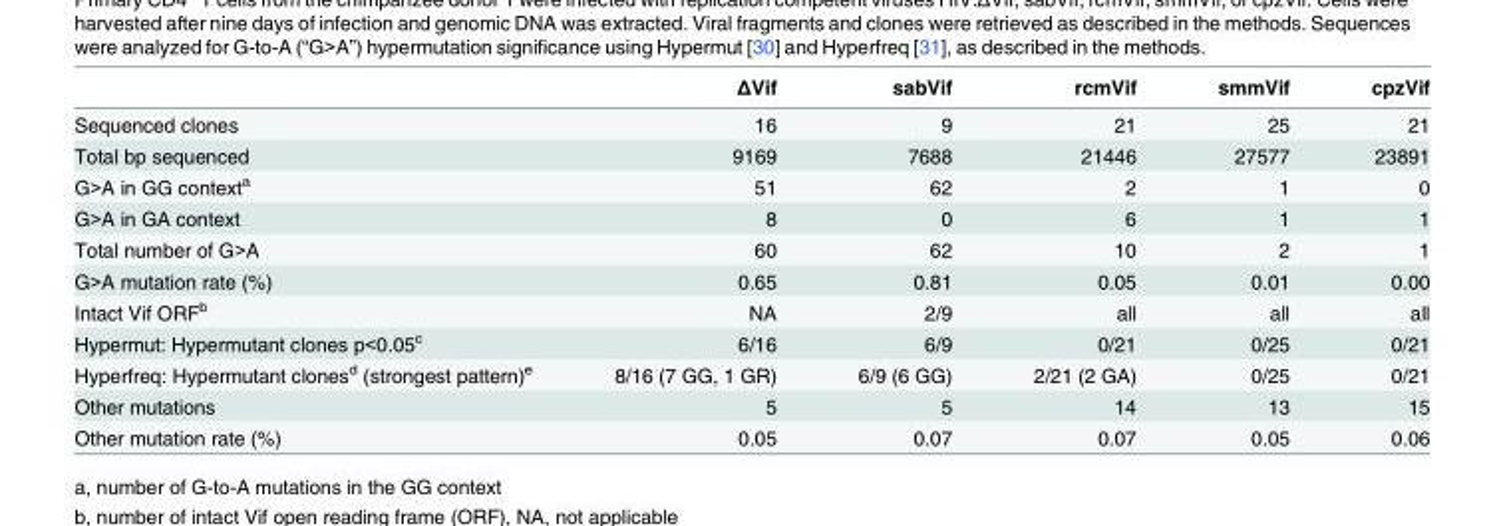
<table><thead><tr><td></td><td>ΔVif</td><td>sabVif</td><td>rcmVif</td><td>smmVif</td><td>cpzVif</td></tr></thead><tbody><tr><td>Sequenced clones</td><td>16</td><td>9</td><td>21</td><td>25</td><td>21</td></tr><tr><td>Total bp sequenced</td><td>9169</td><td>7688</td><td>21446</td><td>27577</td><td>23891</td></tr><tr><td>G&gt;A in GG context<sup>a</sup></td><td>51</td><td>62</td><td>2</td><td>1</td><td>0</td></tr><tr><td>G&gt;A in GA context</td><td>8</td><td>0</td><td>6</td><td>1</td><td>1</td></tr><tr><td>Total number of G&gt;A</td><td>60</td><td>62</td><td>10</td><td>2</td><td>1</td></tr><tr><td>G&gt;A mutation rate (%)</td><td>0.65</td><td>0.81</td><td>0.05</td><td>0.01</td><td>0.00</td></tr><tr><td>Intact Vif ORF<sup>b</sup></td><td>NA</td><td>2/9</td><td>all</td><td>all</td><td>all</td></tr><tr><td>Hypermut: Hypermutant clones p&lt;0.05<sup>c</sup></td><td>6/16</td><td>6/9</td><td>0/21</td><td>0/25</td><td>0/21</td></tr><tr><td>Hyperfreq: Hypermutant clones<sup>d</sup> (strongest pattern)<sup>e</sup></td><td>8/16 (7 GG, 1 GR)</td><td>6/9 (6 GG)</td><td>2/21 (2 GA)</td><td>0/25</td><td>0/21</td></tr><tr><td>Other mutations</td><td>5</td><td>5</td><td>14</td><td>13</td><td>15</td></tr><tr><td>Other mutation rate (%)</td><td>0.05</td><td>0.07</td><td>0.07</td><td>0.05</td><td>0.06</td></tr></tbody></table>